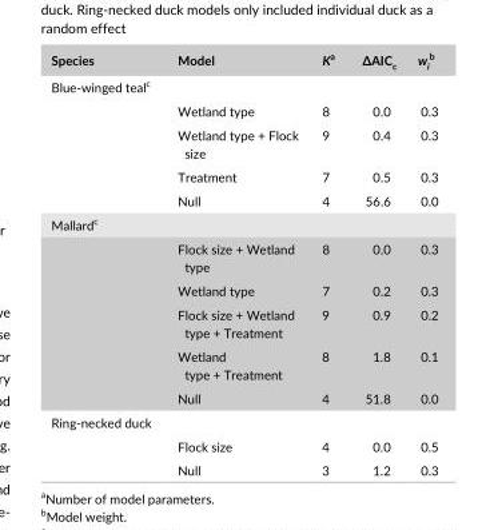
<table><thead><tr><td>Species</td><td>Model</td><td>Ka</td><td>∆AIC<sub>c</sub></td><td>w<sub>i</sub> b</td></tr></thead><tbody><tr><td colspan="5">Blue- winged teal<sup>c</sup></td></tr><tr><td></td><td>Wetland type</td><td>8</td><td>0.0</td><td>0.3</td></tr><tr><td></td><td>Wetland type + Flock size</td><td>9</td><td>0.4</td><td>0.3</td></tr><tr><td></td><td>Treatment</td><td>7</td><td>0.5</td><td>0.3</td></tr><tr><td></td><td>Null</td><td>4</td><td>56.6</td><td>0.0</td></tr><tr><td colspan="5">Mallard<sup>c</sup></td></tr><tr><td></td><td>Flock size + Wetland type</td><td>8</td><td>0.0</td><td>0.3</td></tr><tr><td></td><td>Wetland type</td><td>7</td><td>0.2</td><td>0.3</td></tr><tr><td></td><td>Flock size + Wetland type + Treatment</td><td>9</td><td>0.9</td><td>0.2</td></tr><tr><td></td><td>Wetland type + Treatment</td><td>8</td><td>1.8</td><td>0.1</td></tr><tr><td></td><td>Null</td><td>4</td><td>51.8</td><td>0.0</td></tr><tr><td colspan="5">Ring- necked duck</td></tr><tr><td></td><td>Flock size</td><td>4</td><td>0.0</td><td>0.5</td></tr><tr><td></td><td>Null</td><td>3</td><td>1.2</td><td>0.3</td></tr></tbody></table>